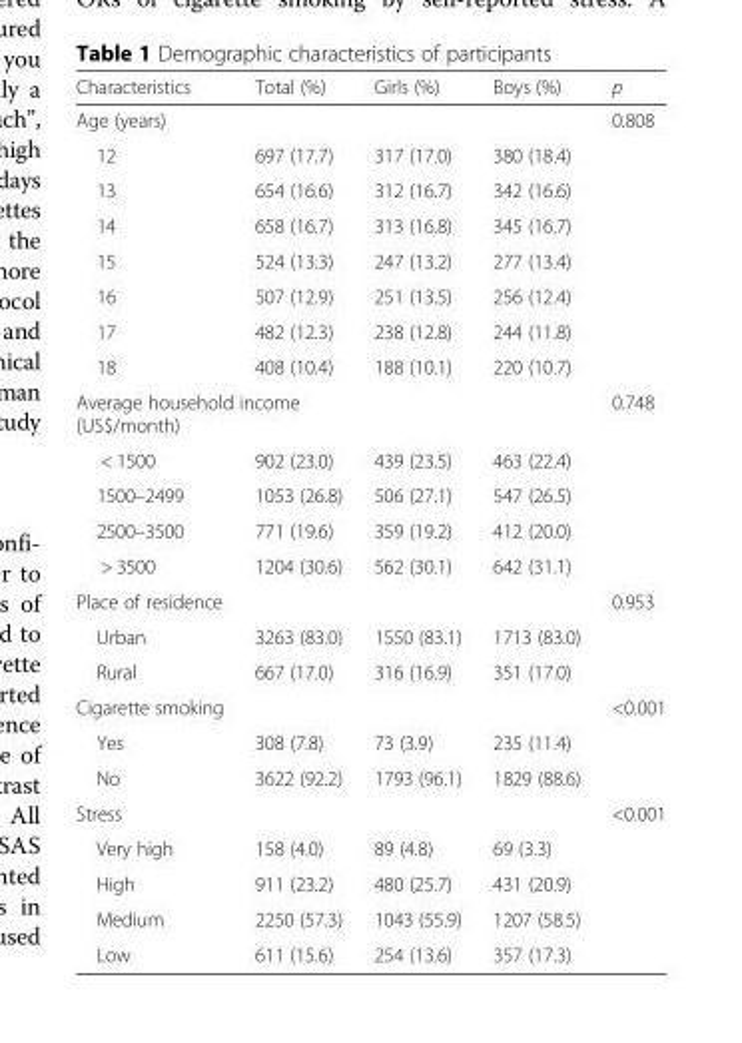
<table><thead><tr><td>Characteristics</td><td>Total (%)</td><td>Girls (%)</td><td>Boys (%)</td><td>p</td></tr></thead><tbody><tr><td>Age (years)</td><td></td><td></td><td></td><td>0.808</td></tr><tr><td>12</td><td>697 (17.7)</td><td>317 (17.0)</td><td>380 (18.4)</td><td></td></tr><tr><td>13</td><td>654 (16.6)</td><td>312 (16.7)</td><td>342 (16.6)</td><td></td></tr><tr><td>14</td><td>658 (16.7)</td><td>313 (16.8)</td><td>345 (16.7)</td><td></td></tr><tr><td>15</td><td>524 (13.3)</td><td>247 (13.2)</td><td>277 (13.4)</td><td></td></tr><tr><td>16</td><td>507 (12.9)</td><td>251 (13.5)</td><td>256 (12.4)</td><td></td></tr><tr><td>17</td><td>482 (12.3)</td><td>238 (12.8)</td><td>244 (11.8)</td><td></td></tr><tr><td>18</td><td>408 (10.4)</td><td>188 (10.1)</td><td>220 (10.7)</td><td></td></tr><tr><td colspan="2">Average household income (US$/month)</td><td></td><td></td><td>0.748</td></tr><tr><td>&lt; 1500</td><td>902 (23.0)</td><td>439 (23.5)</td><td>463 (22.4)</td><td></td></tr><tr><td>1500–2499</td><td>1053 (26.8)</td><td>506 (27.1)</td><td>547 (26.5)</td><td></td></tr><tr><td>2500–3500</td><td>771 (19.6)</td><td>359 (19.2)</td><td>412 (20.0)</td><td></td></tr><tr><td>&gt; 3500</td><td>1204 (30.6)</td><td>562 (30.1)</td><td>642 (31.1)</td><td></td></tr><tr><td>Place of residence</td><td></td><td></td><td></td><td>0.953</td></tr><tr><td>Urban</td><td>3263 (83.0)</td><td>1550 (83.1)</td><td>1713 (83.0)</td><td></td></tr><tr><td>Rural</td><td>667 (17.0)</td><td>316 (16.9)</td><td>351 (17.0)</td><td></td></tr><tr><td>Cigarette smoking</td><td></td><td></td><td></td><td>&lt;0.001</td></tr><tr><td>Yes</td><td>308 (7.8)</td><td>73 (3.9)</td><td>235 (11.4)</td><td></td></tr><tr><td>No</td><td>3622 (92.2)</td><td>1793 (96.1)</td><td>1829 (88.6)</td><td></td></tr><tr><td>Stress</td><td></td><td></td><td></td><td>&lt;0.001</td></tr><tr><td>Very high</td><td>158 (4.0)</td><td>89 (4.8)</td><td>69 (3.3)</td><td></td></tr><tr><td>High</td><td>911 (23.2)</td><td>480 (25.7)</td><td>431 (20.9)</td><td></td></tr><tr><td>Medium</td><td>2250 (57.3)</td><td>1043 (55.9)</td><td>1207 (58.5)</td><td></td></tr><tr><td>Low</td><td>611 (15.6)</td><td>254 (13.6)</td><td>357 (17.3)</td><td></td></tr></tbody></table>